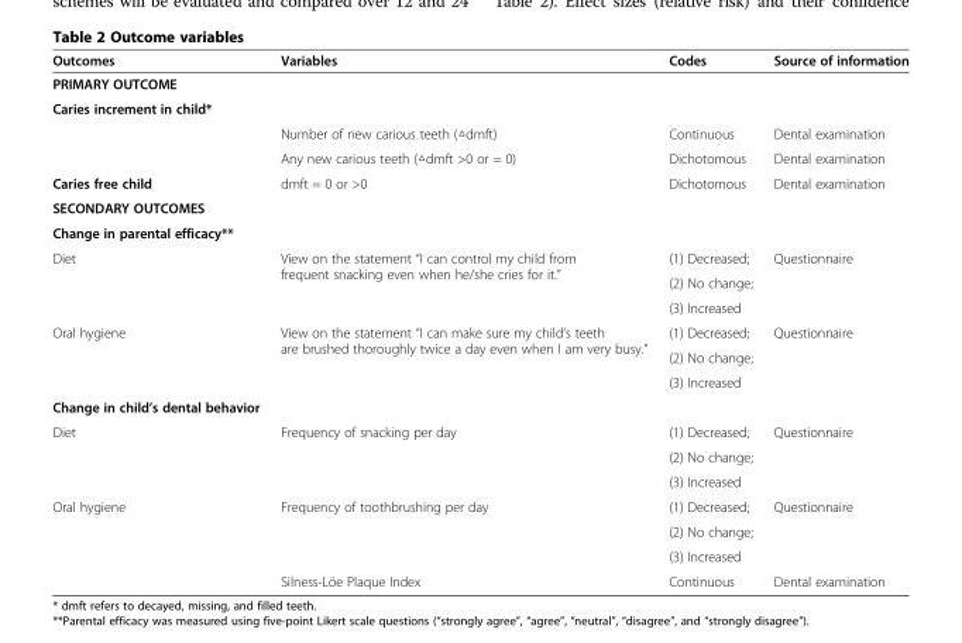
<table><thead><tr><td>Outcomes</td><td>Variables</td><td>Codes</td><td>Source of information</td></tr></thead><tbody><tr><td colspan="4">PRIMARY OUTCOME</td></tr><tr><td colspan="4">Caries increment in child*</td></tr><tr><td></td><td>Number of new carious teeth (△dmft)</td><td>Continuous</td><td>Dental examination</td></tr><tr><td></td><td>Any new carious teeth (△dmft &gt;0 or = 0)</td><td>Dichotomous</td><td>Dental examination</td></tr><tr><td>Caries free child</td><td>dmft = 0 or &gt;0</td><td>Dichotomous</td><td>Dental examination</td></tr><tr><td colspan="4">SECONDARY OUTCOMES</td></tr><tr><td colspan="4">Change in parental efficacy**</td></tr><tr><td rowspan="3">Diet</td><td rowspan="3">View on the statement “I can control my child from frequent snacking even when he/she cries for it.”</td><td>(1) Decreased;</td><td rowspan="3">Questionnaire</td></tr><tr><td>(2) No change;</td></tr><tr><td>(3) Increased</td></tr><tr><td rowspan="3">Oral hygiene</td><td rowspan="3">View on the statement “I can make sure my child’s teeth are brushed thoroughly twice a day even when I am very busy.”</td><td>(1) Decreased;</td><td rowspan="3">Questionnaire</td></tr><tr><td>(2) No change;</td></tr><tr><td>(3) Increased</td></tr><tr><td colspan="4">Change in child’s dental behavior</td></tr><tr><td rowspan="3">Diet</td><td rowspan="3">Frequency of snacking per day</td><td>(1) Decreased;</td><td rowspan="3">Questionnaire</td></tr><tr><td>(2) No change;</td></tr><tr><td>(3) Increased</td></tr><tr><td rowspan="4">Oral hygiene</td><td rowspan="3">Frequency of toothbrushing per day</td><td>(1) Decreased;</td><td rowspan="3">Questionnaire</td></tr><tr><td>(2) No change;</td></tr><tr><td>(3) Increased</td></tr><tr><td>Silness-Löe Plaque Index</td><td>Continuous</td><td>Dental examination</td></tr></tbody></table>